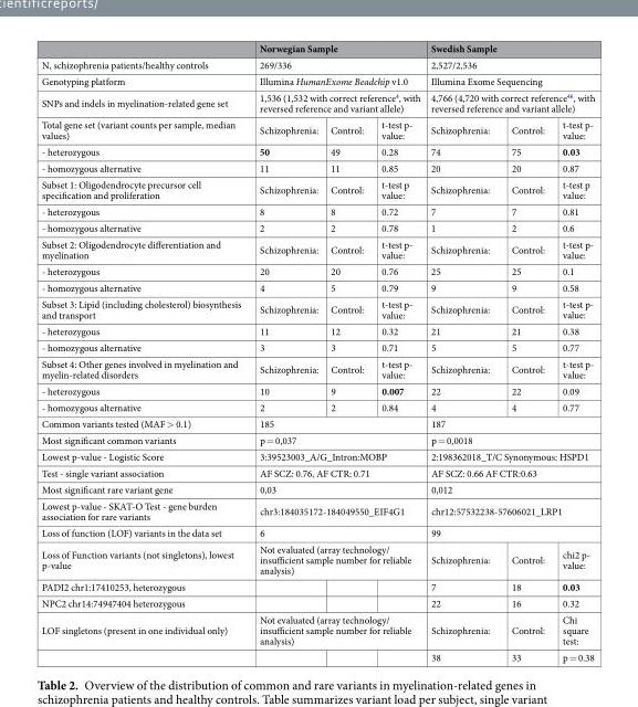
<table><thead><tr><td></td><td colspan="3">Norwegian Sample</td><td colspan="3">Swedish Sample</td></tr></thead><tbody><tr><td>N, schizophrenia patients/healthy controls</td><td colspan="3">269/336</td><td colspan="3">2,527/2,536</td></tr><tr><td>Genotyping platform</td><td colspan="3">Illumina HumanExome Beadchip v1.0</td><td colspan="3">Illumina Exome Sequencing</td></tr><tr><td>SNPs and indels in myelination-related gene set</td><td colspan="3">1,536 (1,532 with correct reference<sup>4</sup>, with reversed reference and variant allele)</td><td colspan="3">4,766 (4,720 with correct reference<sup>46</sup>, with reversed reference and variant allele)</td></tr><tr><td>Total gene set (variant counts per sample, median values)</td><td>Schizophrenia:</td><td>Control:</td><td>t-test p- value:</td><td>Schizophrenia:</td><td>Control:</td><td>t-test p- value:</td></tr><tr><td>- heterozygous</td><td>50</td><td>49</td><td>0.28</td><td>74</td><td>75</td><td>0.03</td></tr><tr><td>- homozygous alternative</td><td>11</td><td>11</td><td>0.85</td><td>20</td><td>20</td><td>0.87</td></tr><tr><td>Subset 1: Oligodendrocyte precursor cell specification and proliferation</td><td>Schizophrenia:</td><td>Control:</td><td>t-test p value:</td><td>Schizophrenia:</td><td>Control:</td><td>t-test p value:</td></tr><tr><td>- heterozygous</td><td>8</td><td>8</td><td>0.72</td><td>7</td><td>7</td><td>0.81</td></tr><tr><td>- homozygous alternative</td><td>2</td><td>2</td><td>0.78</td><td>1</td><td>2</td><td>0.6</td></tr><tr><td>Subset 2: Oligodendrocyte differentiation and myelination</td><td>Schizophrenia:</td><td>Control:</td><td>t-test p- value:</td><td>Schizophrenia:</td><td>Control:</td><td>t-test p- value:</td></tr><tr><td>- heterozygous</td><td>20</td><td>20</td><td>0.76</td><td>25</td><td>25</td><td>0.1</td></tr><tr><td>- homozygous alternative</td><td>4</td><td>5</td><td>0.79</td><td>9</td><td>9</td><td>0.58</td></tr><tr><td>Subset 3: Lipid (including cholesterol) biosynthesis and transport</td><td>Schizophrenia:</td><td>Control:</td><td>t-test p- value:</td><td>Schizophrenia:</td><td>Control:</td><td>t-test p- value:</td></tr><tr><td>- heterozygous</td><td>11</td><td>12</td><td>0.32</td><td>21</td><td>21</td><td>0.38</td></tr><tr><td>- homozygous alternative</td><td>3</td><td>3</td><td>0.71</td><td>5</td><td>5</td><td>0.77</td></tr><tr><td>Subset 4: Other genes involved in myelination and myelin-related disorders</td><td>Schizophrenia:</td><td>Control:</td><td>t-test p- value:</td><td>Schizophrenia:</td><td>Control:</td><td>t-test p- value:</td></tr><tr><td>- heterozygous</td><td>10</td><td>9</td><td>0.007</td><td>22</td><td>22</td><td>0.09</td></tr><tr><td>- homozygous alternative</td><td>2</td><td>2</td><td>0.84</td><td>4</td><td>4</td><td>0.77</td></tr><tr><td>Common variants tested (MAF &gt; 0.1)</td><td colspan="3">185</td><td colspan="3">187</td></tr><tr><td>Most significant common variants</td><td colspan="3">p = 0,037</td><td colspan="3">p = 0,0018</td></tr><tr><td>Lowest p-value - Logistic Score</td><td colspan="3">3:39523003_A/G_Intron:MOBP</td><td colspan="3">2:198362018_T/C Synonymous: HSPD1</td></tr><tr><td>Test - single variant association</td><td colspan="3">AF SCZ: 0.76, AF CTR: 0.71</td><td colspan="3">AF SCZ: 0.66 AF CTR:0.63</td></tr><tr><td>Most significant rare variant gene</td><td colspan="3">0,03</td><td colspan="3">0,012</td></tr><tr><td>Lowest p-value - SKAT-O Test - gene burden association for rare variants</td><td colspan="3">chr3:184035172-184049550_EIF4G1</td><td colspan="3">chr12:57532238-57606021_LRP1</td></tr><tr><td>Loss of function (LOF) variants in the data set</td><td colspan="3">6</td><td colspan="3">99</td></tr><tr><td>Loss of Function variants (not singletons), lowest p-value</td><td colspan="3">Not evaluated (array technology/ insufficient sample number for reliable analysis)</td><td>Schizophrenia:</td><td>Control:</td><td>chi2 p- value:</td></tr><tr><td>PADI2 chr1:17410253, heterozygous</td><td></td><td></td><td></td><td>7</td><td>18</td><td>0.03</td></tr><tr><td>NPC2 chr14:74947404 heterozygous</td><td></td><td></td><td></td><td>22</td><td>16</td><td>0.32</td></tr><tr><td rowspan="2">LOF singletons (present in one individual only)</td><td colspan="3">Not evaluated (array technology/ insufficient sample number for reliable analysis)</td><td>Schizophrenia:</td><td>Control:</td><td>Chi square test:</td></tr><tr><td></td><td></td><td></td><td>38</td><td>33</td><td>p = 0.38</td></tr></tbody></table>